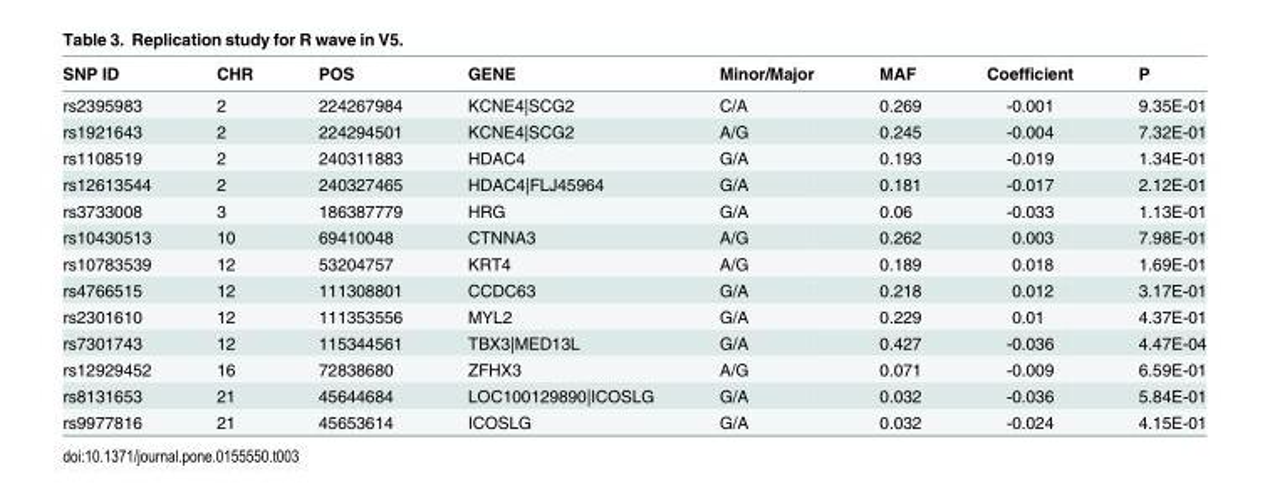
<table><thead><tr><td>SNP ID</td><td>CHR</td><td>POS</td><td>GENE</td><td>Minor/Major</td><td>MAF</td><td>Coefficient</td><td>P</td></tr></thead><tbody><tr><td>rs2395983</td><td>2</td><td>224267984</td><td>KCNE4|SCG2</td><td>C/A</td><td>0.269</td><td>-0.001</td><td>9.35E-01</td></tr><tr><td>rs1921643</td><td>2</td><td>224294501</td><td>KCNE4|SCG2</td><td>A/G</td><td>0.245</td><td>-0.004</td><td>7.32E-01</td></tr><tr><td>rs1108519</td><td>2</td><td>240311883</td><td>HDAC4</td><td>G/A</td><td>0.193</td><td>-0.019</td><td>1.34E-01</td></tr><tr><td>rs12613544</td><td>2</td><td>240327465</td><td>HDAC4|FLJ45964</td><td>G/A</td><td>0.181</td><td>-0.017</td><td>2.12E-01</td></tr><tr><td>rs3733008</td><td>3</td><td>186387779</td><td>HRG</td><td>G/A</td><td>0.06</td><td>-0.033</td><td>1.13E-01</td></tr><tr><td>rs10430513</td><td>10</td><td>69410048</td><td>CTNNA3</td><td>A/G</td><td>0.262</td><td>0.003</td><td>7.98E-01</td></tr><tr><td>rs10783539</td><td>12</td><td>53204757</td><td>KRT4</td><td>A/G</td><td>0.189</td><td>0.018</td><td>1.69E-01</td></tr><tr><td>rs4766515</td><td>12</td><td>111308801</td><td>CCDC63</td><td>G/A</td><td>0.218</td><td>0.012</td><td>3.17E-01</td></tr><tr><td>rs2301610</td><td>12</td><td>111353556</td><td>MYL2</td><td>G/A</td><td>0.229</td><td>0.01</td><td>4.37E-01</td></tr><tr><td>rs7301743</td><td>12</td><td>115344561</td><td>TBX3|MED13L</td><td>G/A</td><td>0.427</td><td>-0.036</td><td>4.47E-04</td></tr><tr><td>rs12929452</td><td>16</td><td>72838680</td><td>ZFHX3</td><td>A/G</td><td>0.071</td><td>-0.009</td><td>6.59E-01</td></tr><tr><td>rs8131653</td><td>21</td><td>45644684</td><td>LOC100129890|ICOSLG</td><td>G/A</td><td>0.032</td><td>-0.036</td><td>5.84E-01</td></tr><tr><td>rs9977816</td><td>21</td><td>45653614</td><td>ICOSLG</td><td>G/A</td><td>0.032</td><td>-0.024</td><td>4.15E-01</td></tr></tbody></table>